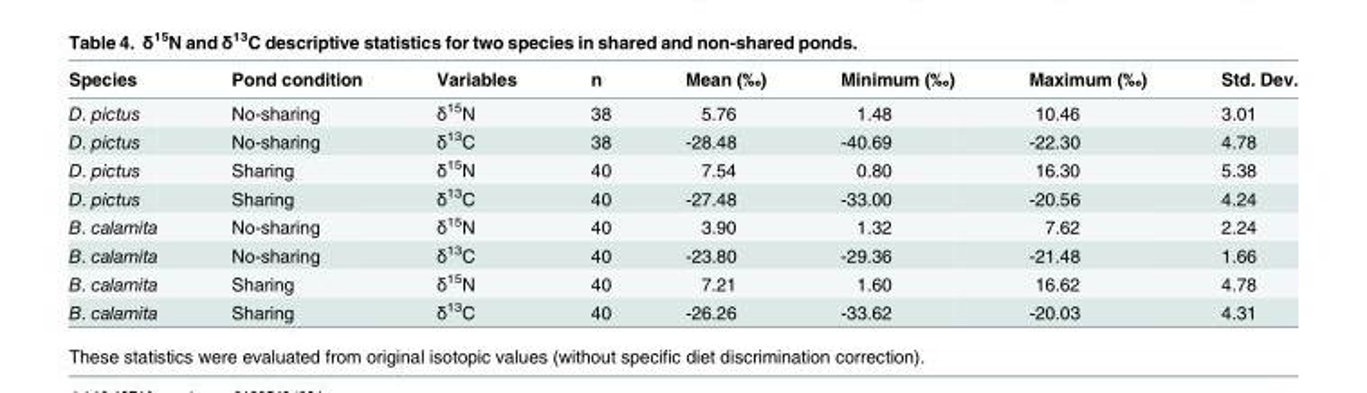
<table><thead><tr><td>Species</td><td>Pond condition</td><td>Variables</td><td>n</td><td>Mean (‰)</td><td>Minimum (‰)</td><td>Maximum (‰)</td><td>Std. Dev.</td></tr></thead><tbody><tr><td>D. pictus</td><td>No-sharing</td><td>δ<sup>15</sup>N</td><td>38</td><td>5.76</td><td>1.48</td><td>10.46</td><td>3.01</td></tr><tr><td>D. pictus</td><td>No-sharing</td><td>δ<sup>13</sup>C</td><td>38</td><td>-28.48</td><td>-40.69</td><td>-22.30</td><td>4.78</td></tr><tr><td>D. pictus</td><td>Sharing</td><td>δ<sup>15</sup>N</td><td>40</td><td>7.54</td><td>0.80</td><td>16.30</td><td>5.38</td></tr><tr><td>D. pictus</td><td>Sharing</td><td>δ<sup>13</sup>C</td><td>40</td><td>-27.48</td><td>-33.00</td><td>-20.56</td><td>4.24</td></tr><tr><td>B. calamita</td><td>No-sharing</td><td>δ<sup>15</sup>N</td><td>40</td><td>3.90</td><td>1.32</td><td>7.62</td><td>2.24</td></tr><tr><td>B. calamita</td><td>No-sharing</td><td>δ<sup>13</sup>C</td><td>40</td><td>-23.80</td><td>-29.36</td><td>-21.48</td><td>1.66</td></tr><tr><td>B. calamita</td><td>Sharing</td><td>δ<sup>15</sup>N</td><td>40</td><td>7.21</td><td>1.60</td><td>16.62</td><td>4.78</td></tr><tr><td>B. calamita</td><td>Sharing</td><td>δ<sup>13</sup>C</td><td>40</td><td>-26.26</td><td>-33.62</td><td>-20.03</td><td>4.31</td></tr></tbody></table>